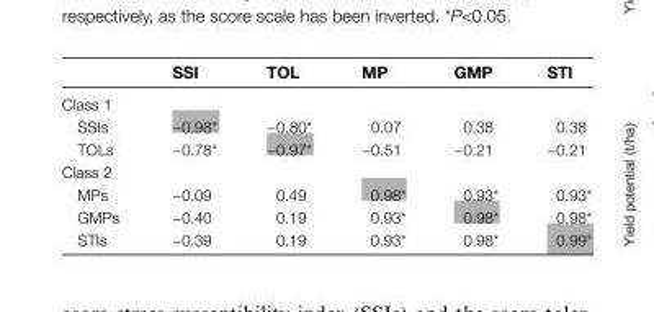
<table><thead><tr><td></td><td>SSI</td><td>TOL</td><td>MP</td><td>GMP</td><td>STI</td></tr></thead><tbody><tr><td colspan="6">Class 1</td></tr><tr><td>SSIs</td><td>−0.98*</td><td>−0.80*</td><td>0.07</td><td>0.38</td><td>0.38</td></tr><tr><td>TOLs</td><td>−0.78*</td><td>−0.97*</td><td>−0.51</td><td>−0.21</td><td>−0.21</td></tr><tr><td colspan="6">Class 2</td></tr><tr><td>MPs</td><td>−0.09</td><td>0.49</td><td>0.98*</td><td>0.93*</td><td>0.93*</td></tr><tr><td>GMPs</td><td>−0.40</td><td>0.19</td><td>0.93*</td><td>0.98*</td><td>0.98*</td></tr><tr><td>STIs</td><td>−0.39</td><td>0.19</td><td>0.93*</td><td>0.98*</td><td>0.99*</td></tr></tbody></table>